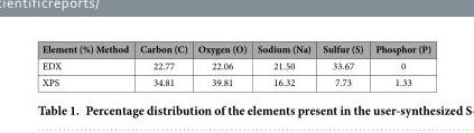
<table><thead><tr><td>Element (%) Method</td><td>Carbon (C)</td><td>Oxygen (O)</td><td>Sodium (Na)</td><td>Sulfur (S)</td><td>Phosphor (P)</td></tr></thead><tbody><tr><td>EDX</td><td>22.77</td><td>22.06</td><td>21.50</td><td>33.67</td><td>0</td></tr><tr><td>XPS</td><td>34.81</td><td>39.81</td><td>16.32</td><td>7.73</td><td>1.33</td></tr></tbody></table>